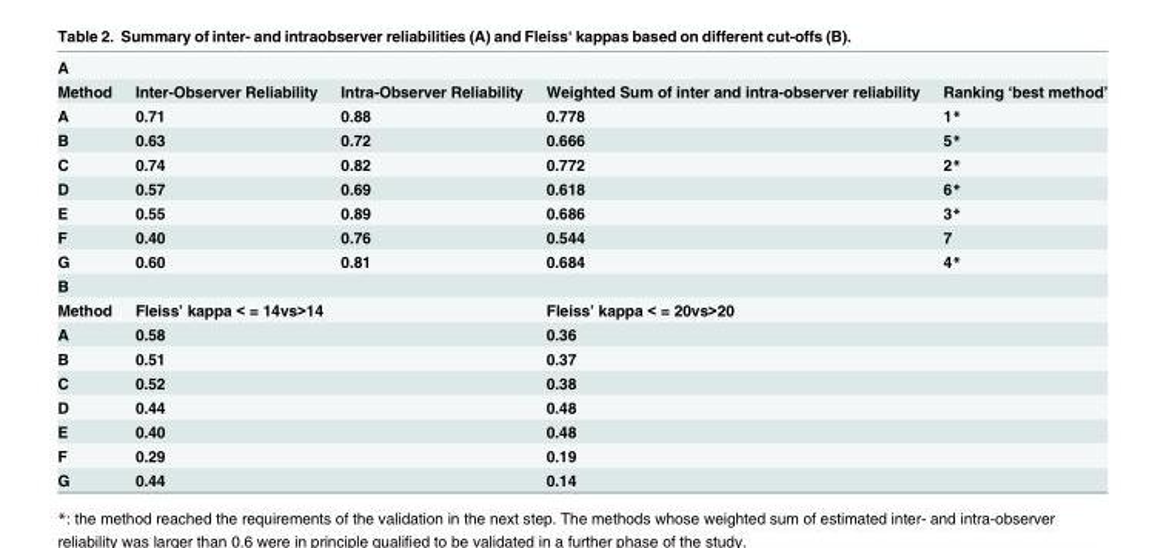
<table><tbody><tr><td colspan="5">A</td></tr><tr><td>Method</td><td>Inter-Observer Reliability</td><td>Intra-Observer Reliability</td><td>Weighted Sum of inter and intra-observer reliability</td><td>Ranking ‘best method’</td></tr><tr><td>A</td><td>0.71</td><td>0.88</td><td>0.778</td><td>1*</td></tr><tr><td>B</td><td>0.63</td><td>0.72</td><td>0.666</td><td>5*</td></tr><tr><td>C</td><td>0.74</td><td>0.82</td><td>0.772</td><td>2*</td></tr><tr><td>D</td><td>0.57</td><td>0.69</td><td>0.618</td><td>6*</td></tr><tr><td>E</td><td>0.55</td><td>0.89</td><td>0.686</td><td>3*</td></tr><tr><td>F</td><td>0.40</td><td>0.76</td><td>0.544</td><td>7</td></tr><tr><td>G</td><td>0.60</td><td>0.81</td><td>0.684</td><td>4*</td></tr><tr><td colspan="5">B</td></tr><tr><td>Method</td><td colspan="2">Fleiss’ kappa &lt; = 14vs&gt;14</td><td colspan="2">Fleiss’ kappa &lt; = 20vs&gt;20</td></tr><tr><td>A</td><td colspan="2">0.58</td><td colspan="2">0.36</td></tr><tr><td>B</td><td colspan="2">0.51</td><td colspan="2">0.37</td></tr><tr><td>C</td><td colspan="2">0.52</td><td colspan="2">0.38</td></tr><tr><td>D</td><td colspan="2">0.44</td><td colspan="2">0.48</td></tr><tr><td>E</td><td colspan="2">0.40</td><td colspan="2">0.48</td></tr><tr><td>F</td><td colspan="2">0.29</td><td colspan="2">0.19</td></tr><tr><td>G</td><td colspan="2">0.44</td><td colspan="2">0.14</td></tr></tbody></table>